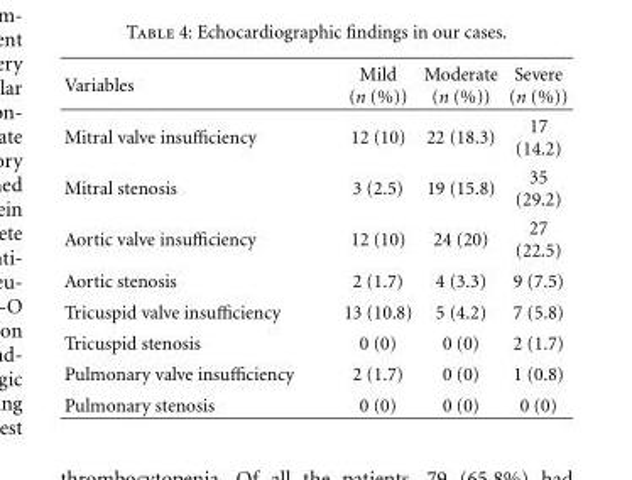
<table><thead><tr><td>Variables</td><td>Mild (n (%))</td><td>Moderate (n (%))</td><td>Severe (n (%))</td></tr></thead><tbody><tr><td>Mitral valve insufficiency</td><td>12 (10)</td><td>22 (18.3)</td><td>17 (14.2)</td></tr><tr><td>Mitral stenosis</td><td>3 (2.5)</td><td>19 (15.8)</td><td>35 (29.2)</td></tr><tr><td>Aortic valve insufficiency</td><td>12 (10)</td><td>24 (20)</td><td>27 (22.5)</td></tr><tr><td>Aortic stenosis</td><td>2 (1.7)</td><td>4 (3.3)</td><td>9 (7.5)</td></tr><tr><td>Tricuspid valve insufficiency</td><td>13 (10.8)</td><td>5 (4.2)</td><td>7 (5.8)</td></tr><tr><td>Tricuspid stenosis</td><td>0 (0)</td><td>0 (0)</td><td>2 (1.7)</td></tr><tr><td>Pulmonary valve insufficiency</td><td>2 (1.7)</td><td>0 (0)</td><td>1 (0.8)</td></tr><tr><td>Pulmonary stenosis</td><td>0 (0)</td><td>0 (0)</td><td>0 (0)</td></tr></tbody></table>